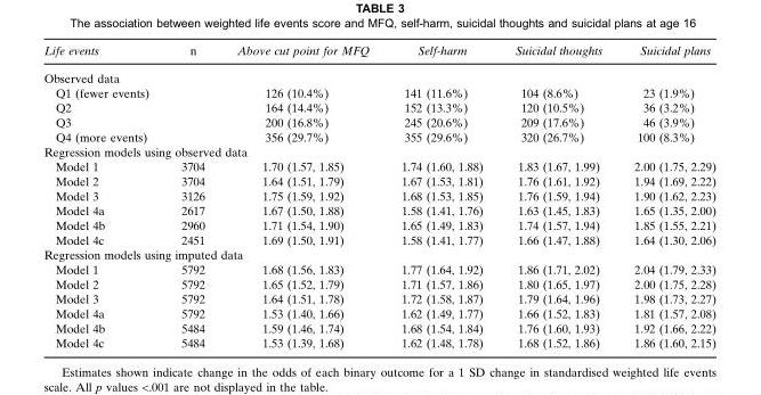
<table><thead><tr><td>Life events</td><td>n</td><td>Above cut point for MFQ</td><td>Self-harm</td><td>Suicidal thoughts</td><td>Suicidal plans</td></tr></thead><tbody><tr><td colspan="6">Observed data</td></tr><tr><td>Q1 (fewer events)</td><td></td><td>126 (10.4%)</td><td>141 (11.6%)</td><td>104 (8.6%)</td><td>23 (1.9%)</td></tr><tr><td>Q2</td><td></td><td>164 (14.4%)</td><td>152 (13.3%)</td><td>120 (10.5%)</td><td>36 (3.2%)</td></tr><tr><td>Q3</td><td></td><td>200 (16.8%)</td><td>245 (20.6%)</td><td>209 (17.6%)</td><td>46 (3.9%)</td></tr><tr><td>Q4 (more events)</td><td></td><td>356 (29.7%)</td><td>355 (29.6%)</td><td>320 (26.7%)</td><td>100 (8.3%)</td></tr><tr><td colspan="6">Regression models using observed data</td></tr><tr><td>Model 1</td><td>3704</td><td>1.70 (1.57, 1.85)</td><td>1.74 (1.60, 1.88)</td><td>1.83 (1.67, 1.99)</td><td>2.00 (1.75, 2.29)</td></tr><tr><td>Model 2</td><td>3704</td><td>1.64 (1.51, 1.79)</td><td>1.67 (1.53, 1.81)</td><td>1.76 (1.61, 1.92)</td><td>1.94 (1.69, 2.22)</td></tr><tr><td>Model 3</td><td>3126</td><td>1.75 (1.59, 1.92)</td><td>1.68 (1.53, 1.85)</td><td>1.76 (1.59, 1.94)</td><td>1.90 (1.62, 2.23)</td></tr><tr><td>Model 4a</td><td>2617</td><td>1.67 (1.50, 1.88)</td><td>1.58 (1.41, 1.76)</td><td>1.63 (1.45, 1.83)</td><td>1.65 (1.35, 2.00)</td></tr><tr><td>Model 4b</td><td>2960</td><td>1.71 (1.54, 1.90)</td><td>1.65 (1.49, 1.83)</td><td>1.74 (1.57, 1.94)</td><td>1.85 (1.55, 2.21)</td></tr><tr><td>Model 4c</td><td>2451</td><td>1.69 (1.50, 1.91)</td><td>1.58 (1.41, 1.77)</td><td>1.66 (1.47, 1.88)</td><td>1.64 (1.30, 2.06)</td></tr><tr><td colspan="6">Regression models using imputed data</td></tr><tr><td>Model 1</td><td>5792</td><td>1.68 (1.56, 1.83)</td><td>1.77 (1.64, 1.92)</td><td>1.86 (1.71, 2.02)</td><td>2.04 (1.79, 2.33)</td></tr><tr><td>Model 2</td><td>5792</td><td>1.65 (1.52, 1.79)</td><td>1.71 (1.57, 1.86)</td><td>1.80 (1.65, 1.97)</td><td>2.00 (1.75, 2.28)</td></tr><tr><td>Model 3</td><td>5792</td><td>1.64 (1.51, 1.78)</td><td>1.72 (1.58, 1.87)</td><td>1.79 (1.64, 1.96)</td><td>1.98 (1.73, 2.27)</td></tr><tr><td>Model 4a</td><td>5792</td><td>1.53 (1.40, 1.66)</td><td>1.62 (1.49, 1.77)</td><td>1.66 (1.52, 1.83)</td><td>1.81 (1.57, 2.08)</td></tr><tr><td>Model 4b</td><td>5484</td><td>1.59 (1.46, 1.74)</td><td>1.68 (1.54, 1.84)</td><td>1.76 (1.60, 1.93)</td><td>1.92 (1.66, 2.22)</td></tr><tr><td>Model 4c</td><td>5484</td><td>1.53 (1.39, 1.68)</td><td>1.62 (1.48, 1.78)</td><td>1.68 (1.52, 1.86)</td><td>1.86 (1.60, 2.15)</td></tr></tbody></table>